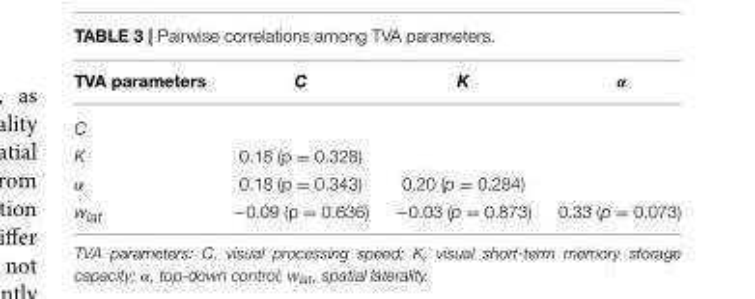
<table><thead><tr><td>TVA parameters</td><td>C</td><td>K</td><td>α</td></tr></thead><tbody><tr><td colspan="4">C</td></tr><tr><td>K</td><td>0.18 (p = 0.328)</td><td></td><td></td></tr><tr><td>α</td><td>0.18 (p = 0.343)</td><td>0.20 (p = 0.284)</td><td></td></tr><tr><td>w<sub>lat</sub></td><td>−0.09 (p = 0.636)</td><td>−0.03 (p = 0.873)</td><td>0.33 (p = 0.073)</td></tr></tbody></table>